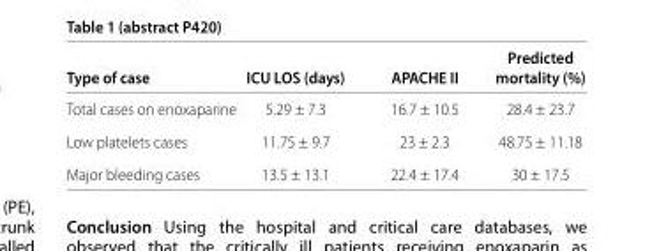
<table><thead><tr><td>Type of case</td><td>ICU LOS (days)</td><td>APACHE II</td><td>mortality (%)</td></tr></thead><tbody><tr><td>Total cases on enoxaparine</td><td>5.29 ± 7.3</td><td>16.7 ± 10.5</td><td>28.4 ± 23.7</td></tr><tr><td>Low platelets cases</td><td>11.75 ± 9.7</td><td>23 ± 2.3</td><td>48.75 ± 11.18</td></tr><tr><td>Major bleeding cases</td><td>13.5 ± 13.1</td><td>22.4 ± 17.4</td><td>30 ± 17.5</td></tr></tbody></table>